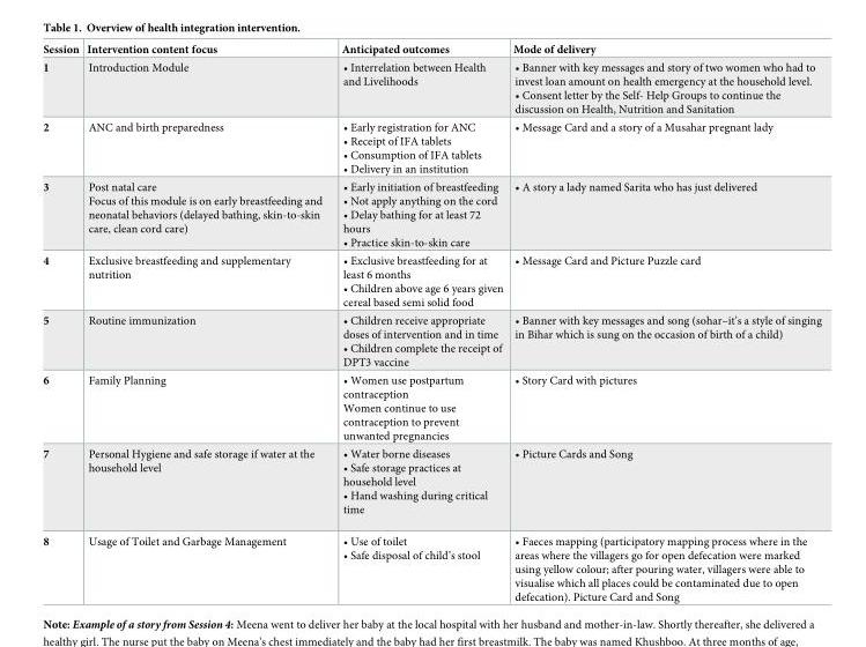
<table><thead><tr><td>Session</td><td>Intervention content focus</td><td>Anticipated outcomes</td><td>Mode of delivery</td></tr></thead><tbody><tr><td>1</td><td>Introduction Module</td><td>• Interrelation between Health and Livelihoods</td><td>• Banner with key messages and story of two women who had to invest loan amount on health emergency at the household level. • Consent letter by the Self- Help Groups to continue the discussion on Health, Nutrition and Sanitation</td></tr><tr><td>2</td><td>ANC and birth preparedness</td><td>• Early registration for ANC • Receipt of IFA tablets • Consumption of IFA tablets • Delivery in an institution</td><td>• Message Card and a story of a Musahar pregnant lady</td></tr><tr><td>3</td><td>Post natal care Focus of this module is on early breastfeeding and neonatal behaviors (delayed bathing, skin-to-skin care, clean cord care)</td><td>• Early initiation of breastfeeding • Not apply anything on the cord • Delay bathing for at least 72 hours • Practice skin-to-skin care</td><td>• A story a lady named Sarita who has just delivered</td></tr><tr><td>4</td><td>Exclusive breastfeeding and supplementary nutrition</td><td>• Exclusive breastfeeding for at least 6 months • Children above age 6 years given cereal based semi solid food</td><td>• Message Card and Picture Puzzle card</td></tr><tr><td>5</td><td>Routine immunization</td><td>• Children receive appropriate doses of intervention and in time • Children complete the receipt of DPT3 vaccine</td><td>• Banner with key messages and song (sohar–it’s a style of singing in Bihar which is sung on the occasion of birth of a child)</td></tr><tr><td>6</td><td>Family Planning</td><td>• Women use postpartum contraception Women continue to use contraception to prevent unwanted pregnancies</td><td>• Story Card with pictures</td></tr><tr><td>7</td><td>Personal Hygiene and safe storage if water at the household level</td><td>• Water borne diseases • Safe storage practices at household level • Hand washing during critical time</td><td>• Picture Cards and Song</td></tr><tr><td>8</td><td>Usage of Toilet and Garbage Management</td><td>• Use of toilet • Safe disposal of child’s stool</td><td>• Faeces mapping (participatory mapping process where in the areas where the villagers go for open defecation were marked using yellow colour; after pouring water, villagers were able to visualise which all places could be contaminated due to open defecation). Picture Card and Song</td></tr></tbody></table>